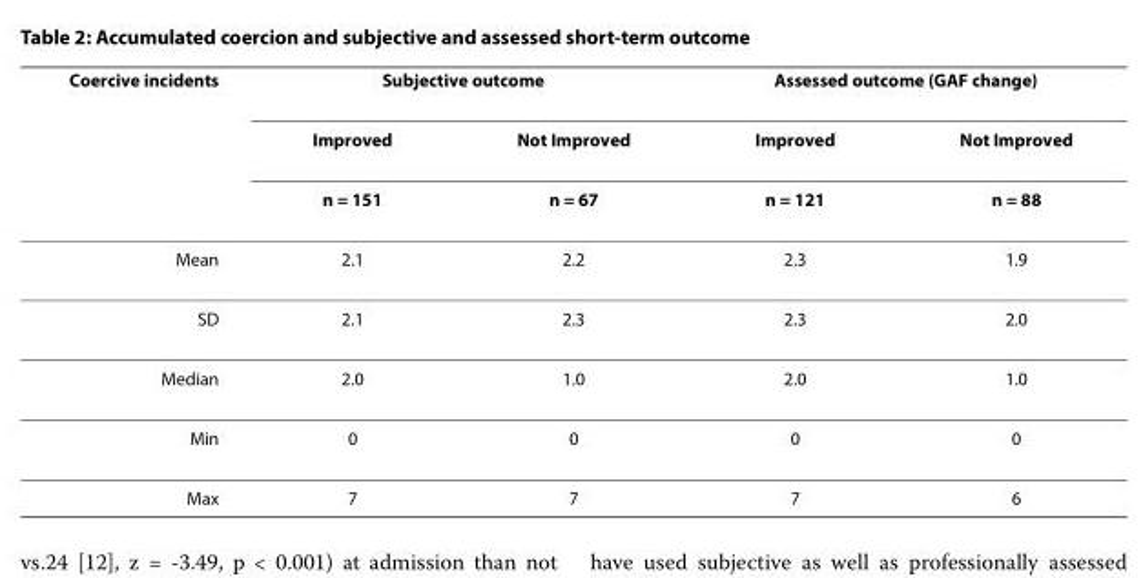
<table><thead><tr><td rowspan="3">Coercive incidents</td><td colspan="2">Subjective outcome</td><td colspan="2">Assessed outcome (GAF change)</td></tr><tr><td rowspan="2">Improved n = 151</td><td rowspan="2">Not Improved n = 67</td><td rowspan="2">Improved n = 121</td><td rowspan="2">Not Improved n = 88</td></tr><tr></tr></thead><tbody><tr><td>Mean</td><td>2.1</td><td>2.2</td><td>2.3</td><td>1.9</td></tr><tr><td>SD</td><td>2.1</td><td>2.3</td><td>2.3</td><td>2.0</td></tr><tr><td>Median</td><td>2.0</td><td>1.0</td><td>2.0</td><td>1.0</td></tr><tr><td>Min</td><td>0</td><td>0</td><td>0</td><td>0</td></tr><tr><td>Max</td><td>7</td><td>7</td><td>7</td><td>6</td></tr></tbody></table>